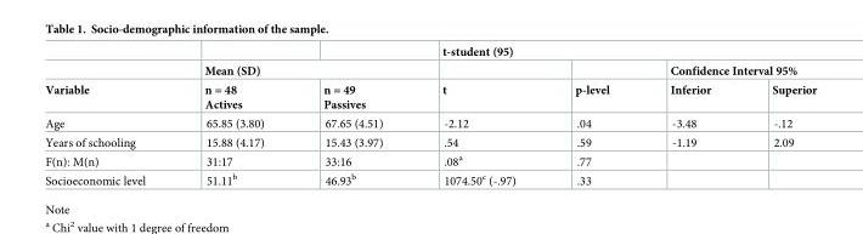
<table><thead><tr><td rowspan="3">Variable</td><td></td><td></td><td colspan="4">t-student (95)</td></tr><tr><td colspan="2">Mean (SD)</td><td rowspan="2">t</td><td rowspan="2">p-level</td><td colspan="2">Confidence Interval 95%</td></tr><tr><td>n = 48 Actives</td><td>n = 49 Passives</td><td>Inferior</td><td>Superior</td></tr></thead><tbody><tr><td>Age</td><td>65.85 (3.80)</td><td>67.65 (4.51)</td><td>-2.12</td><td>.04</td><td>-3.48</td><td>-.12</td></tr><tr><td>Years of schooling</td><td>15.88 (4.17)</td><td>15.43 (3.97)</td><td>.54</td><td>.59</td><td>-1.19</td><td>2.09</td></tr><tr><td>F(n): M(n)</td><td>31:17</td><td>33:16</td><td>.08<sup>a</sup></td><td>.77</td><td></td><td></td></tr><tr><td>Socioeconomic level</td><td>51.11<sup>b</sup></td><td>46.93<sup>b</sup></td><td>1074.50<sup>c</sup> (-.97)</td><td>.33</td><td></td><td></td></tr></tbody></table>